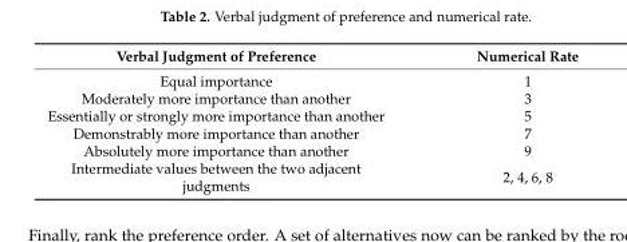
<table><thead><tr><td>Verbal Judgment of Preference</td><td>Numerical Rate</td></tr></thead><tbody><tr><td>Equal importance</td><td>1</td></tr><tr><td>Moderately more importance than another</td><td>3</td></tr><tr><td>Essentially or strongly more importance than another</td><td>5</td></tr><tr><td>Demonstrably more importance than another</td><td>7</td></tr><tr><td>Absolutely more importance than another</td><td>9</td></tr><tr><td>Intermediate values between the two adjacent judgments</td><td>2, 4, 6, 8</td></tr></tbody></table>